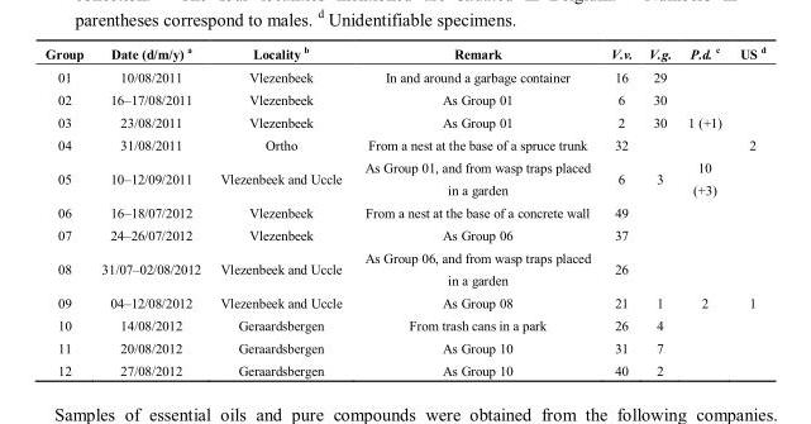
<table><thead><tr><td>Group</td><td>Date (d/m/y) <sup>a</sup></td><td>Locality <sup>b</sup></td><td>Remark</td><td>V.v.</td><td>V.g.</td><td>P.d. <sup>c</sup></td><td>US <sup>d</sup></td></tr></thead><tbody><tr><td>01</td><td>10/08/2011</td><td>Vlezenbeek</td><td>In and around a garbage container</td><td>16</td><td>29</td><td></td><td></td></tr><tr><td>02</td><td>16–17/08/2011</td><td>Vlezenbeek</td><td>As Group 01</td><td>6</td><td>30</td><td></td><td></td></tr><tr><td>03</td><td>23/08/2011</td><td>Vlezenbeek</td><td>As Group 01</td><td>2</td><td>30</td><td>1 (+1)</td><td></td></tr><tr><td>04</td><td>31/08/2011</td><td>Ortho</td><td>From a nest at the base of a spruce trunk</td><td>32</td><td></td><td></td><td>2</td></tr><tr><td>05</td><td>10–12/09/2011</td><td>Vlezenbeek and Uccle</td><td>As Group 01, and from wasp traps placed in a garden</td><td>6</td><td>3</td><td>10 (+3)</td><td></td></tr><tr><td>06</td><td>16–18/07/2012</td><td>Vlezenbeek</td><td>From a nest at the base of a concrete wall</td><td>49</td><td></td><td></td><td></td></tr><tr><td>07</td><td>24–26/07/2012</td><td>Vlezenbeek</td><td>As Group 06</td><td>37</td><td></td><td></td><td></td></tr><tr><td>08</td><td>31/07–02/08/2012</td><td>Vlezenbeek and Uccle</td><td>As Group 06, and from wasp traps placed in a garden</td><td>26</td><td></td><td></td><td></td></tr><tr><td>09</td><td>04–12/08/2012</td><td>Vlezenbeek and Uccle</td><td>As Group 08</td><td>21</td><td>1</td><td>2</td><td>1</td></tr><tr><td>10</td><td>14/08/2012</td><td>Geraardsbergen</td><td>From trash cans in a park</td><td>26</td><td>4</td><td></td><td></td></tr><tr><td>11</td><td>20/08/2012</td><td>Geraardsbergen</td><td>As Group 10</td><td>31</td><td>7</td><td></td><td></td></tr><tr><td>12</td><td>27/08/2012</td><td>Geraardsbergen</td><td>As Group 10</td><td>40</td><td>2</td><td></td><td></td></tr></tbody></table>